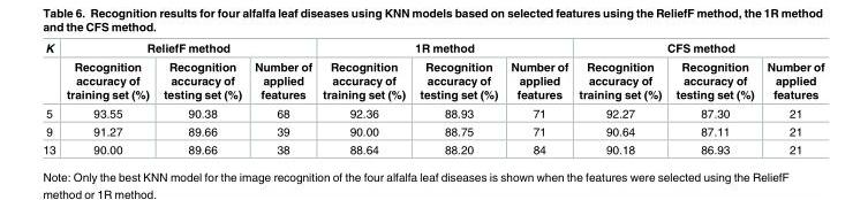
<table><thead><tr><td rowspan="2">K</td><td colspan="3">ReliefF method</td><td colspan="3">1R method</td><td colspan="3">CFS method</td></tr><tr><td>Recognition accuracy of training set (%)</td><td>Recognition accuracy of testing set (%)</td><td>Number of applied features</td><td>Recognition accuracy of training set (%)</td><td>Recognition accuracy of testing set (%)</td><td>Number of applied features</td><td>Recognition accuracy of training set (%)</td><td>Recognition accuracy of testing set (%)</td><td>Number of applied features</td></tr></thead><tbody><tr><td>5</td><td>93.55</td><td>90.38</td><td>68</td><td>92.36</td><td>88.93</td><td>71</td><td>92.27</td><td>87.30</td><td>21</td></tr><tr><td>9</td><td>91.27</td><td>89.66</td><td>39</td><td>90.00</td><td>88.75</td><td>71</td><td>90.64</td><td>87.11</td><td>21</td></tr><tr><td>13</td><td>90.00</td><td>89.66</td><td>38</td><td>88.64</td><td>88.20</td><td>84</td><td>90.18</td><td>86.93</td><td>21</td></tr></tbody></table>